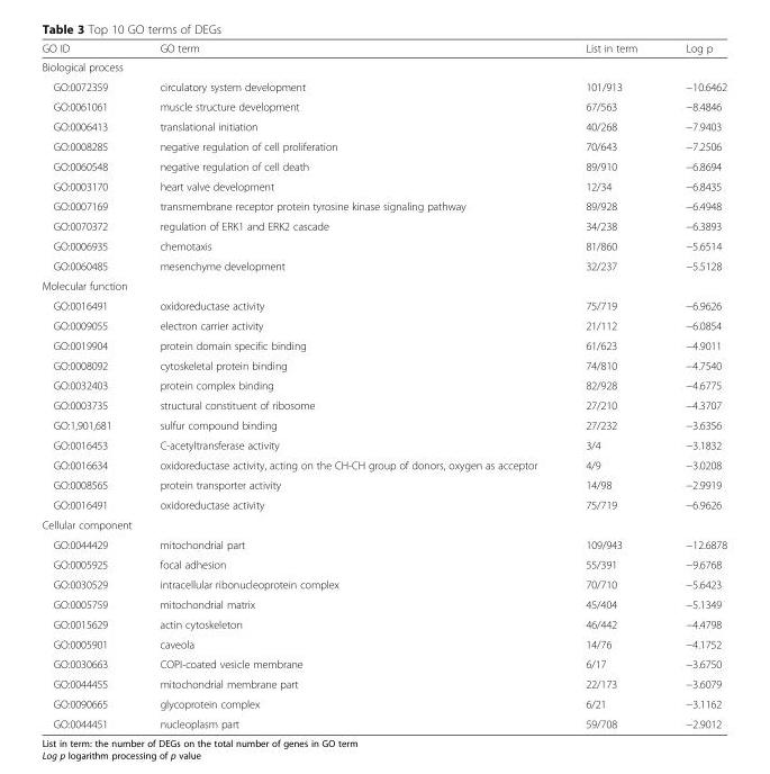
<table><thead><tr><td>GO ID</td><td>GO term</td><td>List in term</td><td>Log p</td></tr></thead><tbody><tr><td colspan="4">Biological process</td></tr><tr><td>GO:0072359</td><td>circulatory system development</td><td>101/913</td><td>−10.6462</td></tr><tr><td>GO:0061061</td><td>muscle structure development</td><td>67/563</td><td>−8.4846</td></tr><tr><td>GO:0006413</td><td>translational initiation</td><td>40/268</td><td>−7.9403</td></tr><tr><td>GO:0008285</td><td>negative regulation of cell proliferation</td><td>70/643</td><td>−7.2506</td></tr><tr><td>GO:0060548</td><td>negative regulation of cell death</td><td>89/910</td><td>−6.8694</td></tr><tr><td>GO:0003170</td><td>heart valve development</td><td>12/34</td><td>−6.8435</td></tr><tr><td>GO:0007169</td><td>transmembrane receptor protein tyrosine kinase signaling pathway</td><td>89/928</td><td>−6.4948</td></tr><tr><td>GO:0070372</td><td>regulation of ERK1 and ERK2 cascade</td><td>34/238</td><td>−6.3893</td></tr><tr><td>GO:0006935</td><td>chemotaxis</td><td>81/860</td><td>−5.6514</td></tr><tr><td>GO:0060485</td><td>mesenchyme development</td><td>32/237</td><td>−5.5128</td></tr><tr><td colspan="4">Molecular function</td></tr><tr><td>GO:0016491</td><td>oxidoreductase activity</td><td>75/719</td><td>−6.9626</td></tr><tr><td>GO:0009055</td><td>electron carrier activity</td><td>21/112</td><td>−6.0854</td></tr><tr><td>GO:0019904</td><td>protein domain specific binding</td><td>61/623</td><td>−4.9011</td></tr><tr><td>GO:0008092</td><td>cytoskeletal protein binding</td><td>74/810</td><td>−4.7540</td></tr><tr><td>GO:0032403</td><td>protein complex binding</td><td>82/928</td><td>−4.6775</td></tr><tr><td>GO:0003735</td><td>structural constituent of ribosome</td><td>27/210</td><td>−4.3707</td></tr><tr><td>GO:1,901,681</td><td>sulfur compound binding</td><td>27/232</td><td>−3.6356</td></tr><tr><td>GO:0016453</td><td>C-acetyltransferase activity</td><td>3/4</td><td>−3.1832</td></tr><tr><td>GO:0016634</td><td>oxidoreductase activity, acting on the CH-CH group of donors, oxygen as acceptor</td><td>4/9</td><td>−3.0208</td></tr><tr><td>GO:0008565</td><td>protein transporter activity</td><td>14/98</td><td>−2.9919</td></tr><tr><td>GO:0016491</td><td>oxidoreductase activity</td><td>75/719</td><td>−6.9626</td></tr><tr><td colspan="4">Cellular component</td></tr><tr><td>GO:0044429</td><td>mitochondrial part</td><td>109/943</td><td>−12.6878</td></tr><tr><td>GO:0005925</td><td>focal adhesion</td><td>55/391</td><td>−9.6768</td></tr><tr><td>GO:0030529</td><td>intracellular ribonucleoprotein complex</td><td>70/710</td><td>−5.6423</td></tr><tr><td>GO:0005759</td><td>mitochondrial matrix</td><td>45/404</td><td>−5.1349</td></tr><tr><td>GO:0015629</td><td>actin cytoskeleton</td><td>46/442</td><td>−4.4798</td></tr><tr><td>GO:0005901</td><td>caveola</td><td>14/76</td><td>−4.1752</td></tr><tr><td>GO:0030663</td><td>COPI-coated vesicle membrane</td><td>6/17</td><td>−3.6750</td></tr><tr><td>GO:0044455</td><td>mitochondrial membrane part</td><td>22/173</td><td>−3.6079</td></tr><tr><td>GO:0090665</td><td>glycoprotein complex</td><td>6/21</td><td>−3.1162</td></tr><tr><td>GO:0044451</td><td>nucleoplasm part</td><td>59/708</td><td>−2.9012</td></tr></tbody></table>